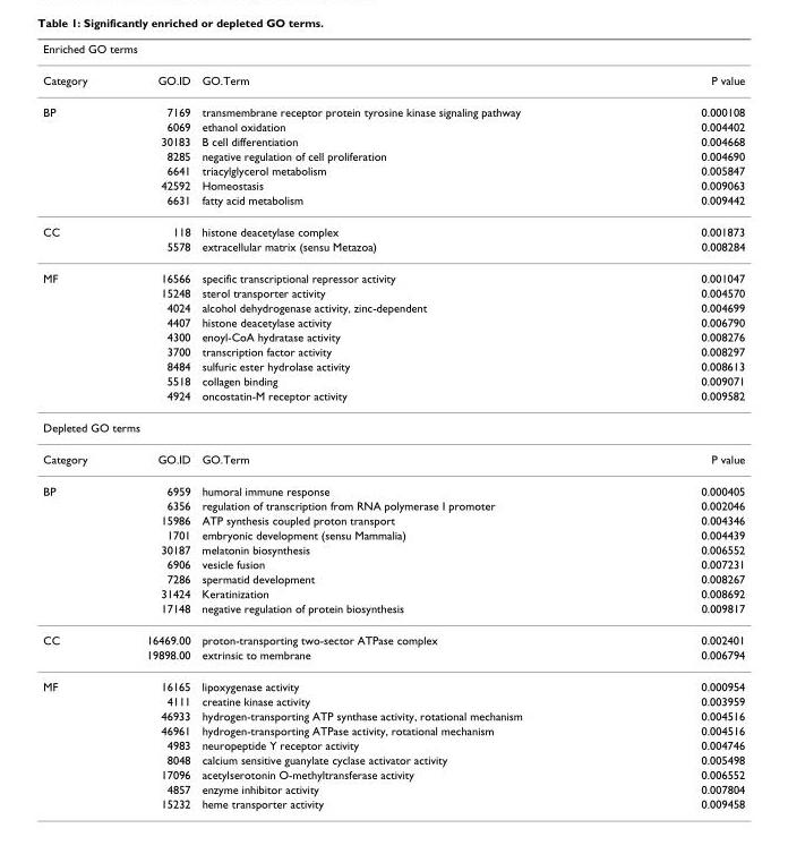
<table><thead><tr><td colspan="4">Enriched GO terms</td></tr><tr><td>Category</td><td>GO.ID</td><td>GO.Term</td><td>P value</td></tr></thead><tbody><tr><td rowspan="7">BP</td><td>7169</td><td>transmembrane receptor protein tyrosine kinase signaling pathway</td><td>0.000108</td></tr><tr><td>6069</td><td>ethanol oxidation</td><td>0.004402</td></tr><tr><td>30183</td><td>B cell differentiation</td><td>0.004668</td></tr><tr><td>8285</td><td>negative regulation of cell proliferation</td><td>0.004690</td></tr><tr><td>6641</td><td>triacylglycerol metabolism</td><td>0.005847</td></tr><tr><td>42592</td><td>Homeostasis</td><td>0.009063</td></tr><tr><td>6631</td><td>fatty acid metabolism</td><td>0.009442</td></tr><tr><td rowspan="2">CC</td><td>118</td><td>histone deacetylase complex</td><td>0.001873</td></tr><tr><td>5578</td><td>extracellular matrix (sensu Metazoa)</td><td>0.008284</td></tr><tr><td rowspan="9">MF</td><td>16566</td><td>specific transcriptional repressor activity</td><td>0.001047</td></tr><tr><td>15248</td><td>sterol transporter activity</td><td>0.004570</td></tr><tr><td>4024</td><td>alcohol dehydrogenase activity, zinc-dependent</td><td>0.004699</td></tr><tr><td>4407</td><td>histone deacetylase activity</td><td>0.006790</td></tr><tr><td>4300</td><td>enoyl-CoA hydratase activity</td><td>0.008276</td></tr><tr><td>3700</td><td>transcription factor activity</td><td>0.008297</td></tr><tr><td>8484</td><td>sulfuric ester hydrolase activity</td><td>0.008613</td></tr><tr><td>5518</td><td>collagen binding</td><td>0.009071</td></tr><tr><td>4924</td><td>oncostatin-M receptor activity</td><td>0.009582</td></tr><tr><td colspan="4">Depleted GO terms</td></tr><tr><td>Category</td><td>GO.ID</td><td>GO.Term</td><td>P value</td></tr><tr><td rowspan="9">BP</td><td>6959</td><td>humoral immune response</td><td>0.000405</td></tr><tr><td>6356</td><td>regulation of transcription from RNA polymerase I promoter</td><td>0.002046</td></tr><tr><td>15986</td><td>ATP synthesis coupled proton transport</td><td>0.004346</td></tr><tr><td>1701</td><td>embryonic development (sensu Mammalia)</td><td>0.004439</td></tr><tr><td>30187</td><td>melatonin biosynthesis</td><td>0.006552</td></tr><tr><td>6906</td><td>vesicle fusion</td><td>0.007231</td></tr><tr><td>7286</td><td>spermatid development</td><td>0.008267</td></tr><tr><td>31424</td><td>Keratinization</td><td>0.008692</td></tr><tr><td>17148</td><td>negative regulation of protein biosynthesis</td><td>0.009817</td></tr><tr><td rowspan="2">CC</td><td>16469.00</td><td>proton-transporting two-sector ATPase complex</td><td>0.002401</td></tr><tr><td>19898.00</td><td>extrinsic to membrane</td><td>0.006794</td></tr><tr><td rowspan="9">MF</td><td>16165</td><td>lipoxygenase activity</td><td>0.000954</td></tr><tr><td>4111</td><td>creatine kinase activity</td><td>0.003959</td></tr><tr><td>46933</td><td>hydrogen-transporting ATP synthase activity, rotational mechanism</td><td>0.004516</td></tr><tr><td>46961</td><td>hydrogen-transporting ATPase activity, rotational mechanism</td><td>0.004516</td></tr><tr><td>4983</td><td>neuropeptide Y receptor activity</td><td>0.004746</td></tr><tr><td>8048</td><td>calcium sensitive guanylate cyclase activator activity</td><td>0.005498</td></tr><tr><td>17096</td><td>acetylserotonin O-methyltransferase activity</td><td>0.006552</td></tr><tr><td>4857</td><td>enzyme inhibitor activity</td><td>0.007804</td></tr><tr><td>15232</td><td>heme transporter activity</td><td>0.009458</td></tr></tbody></table>